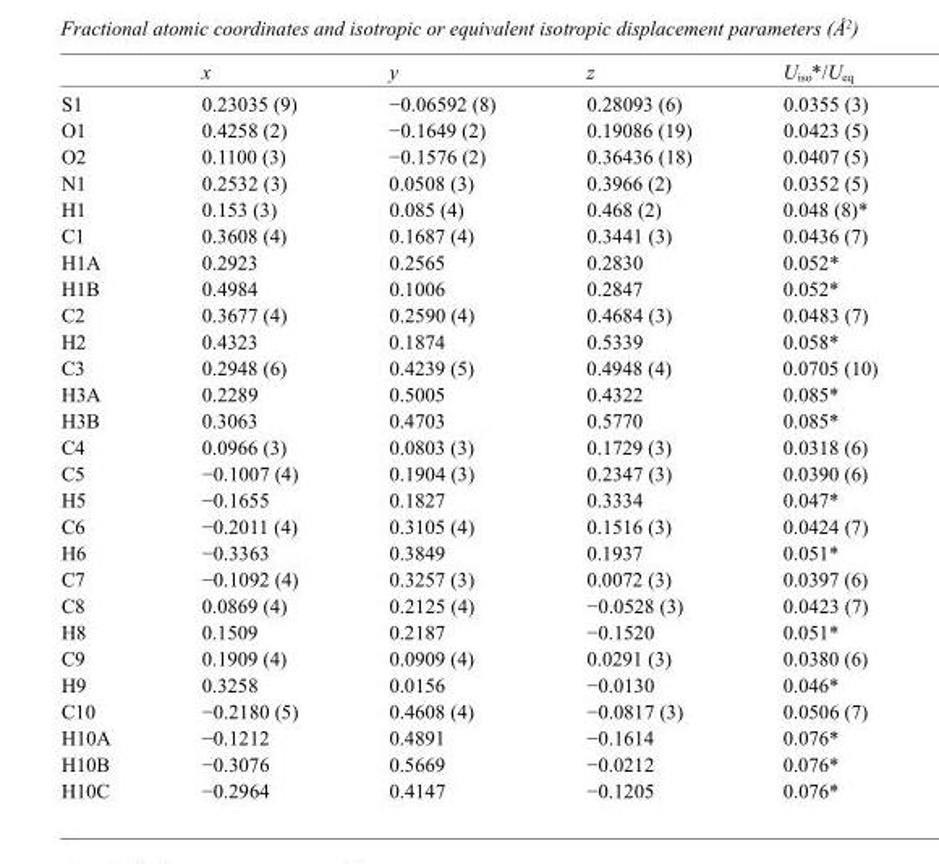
<table><thead><tr><td></td><td>x</td><td>y</td><td>z</td><td>U<sub>iso</sub>*/U<sub>eq</sub></td></tr></thead><tbody><tr><td>S1</td><td>0.23035 (9)</td><td>−0.06592 (8)</td><td>0.28093 (6)</td><td>0.0355 (3)</td></tr><tr><td>O1</td><td>0.4258 (2)</td><td>−0.1649 (2)</td><td>0.19086 (19)</td><td>0.0423 (5)</td></tr><tr><td>O2</td><td>0.1100 (3)</td><td>−0.1576 (2)</td><td>0.36436 (18)</td><td>0.0407 (5)</td></tr><tr><td>N1</td><td>0.2532 (3)</td><td>0.0508 (3)</td><td>0.3966 (2)</td><td>0.0352 (5)</td></tr><tr><td>H1</td><td>0.153 (3)</td><td>0.085 (4)</td><td>0.468 (2)</td><td>0.048 (8)*</td></tr><tr><td>C1</td><td>0.3608 (4)</td><td>0.1687 (4)</td><td>0.3441 (3)</td><td>0.0436 (7)</td></tr><tr><td>H1A</td><td>0.2923</td><td>0.2565</td><td>0.2830</td><td>0.052*</td></tr><tr><td>H1B</td><td>0.4984</td><td>0.1006</td><td>0.2847</td><td>0.052*</td></tr><tr><td>C2</td><td>0.3677 (4)</td><td>0.2590 (4)</td><td>0.4684 (3)</td><td>0.0483 (7)</td></tr><tr><td>H2</td><td>0.4323</td><td>0.1874</td><td>0.5339</td><td>0.058*</td></tr><tr><td>C3</td><td>0.2948 (6)</td><td>0.4239 (5)</td><td>0.4948 (4)</td><td>0.0705 (10)</td></tr><tr><td>H3A</td><td>0.2289</td><td>0.5005</td><td>0.4322</td><td>0.085*</td></tr><tr><td>H3B</td><td>0.3063</td><td>0.4703</td><td>0.5770</td><td>0.085*</td></tr><tr><td>C4</td><td>0.0966 (3)</td><td>0.0803 (3)</td><td>0.1729 (3)</td><td>0.0318 (6)</td></tr><tr><td>C5</td><td>−0.1007 (4)</td><td>0.1904 (3)</td><td>0.2347 (3)</td><td>0.0390 (6)</td></tr><tr><td>H5</td><td>−0.1655</td><td>0.1827</td><td>0.3334</td><td>0.047*</td></tr><tr><td>C6</td><td>−0.2011 (4)</td><td>0.3105 (4)</td><td>0.1516 (3)</td><td>0.0424 (7)</td></tr><tr><td>H6</td><td>−0.3363</td><td>0.3849</td><td>0.1937</td><td>0.051*</td></tr><tr><td>C7</td><td>−0.1092 (4)</td><td>0.3257 (3)</td><td>0.0072 (3)</td><td>0.0397 (6)</td></tr><tr><td>C8</td><td>0.0869 (4)</td><td>0.2125 (4)</td><td>−0.0528 (3)</td><td>0.0423 (7)</td></tr><tr><td>H8</td><td>0.1509</td><td>0.2187</td><td>−0.1520</td><td>0.051*</td></tr><tr><td>C9</td><td>0.1909 (4)</td><td>0.0909 (4)</td><td>0.0291 (3)</td><td>0.0380 (6)</td></tr><tr><td>H9</td><td>0.3258</td><td>0.0156</td><td>−0.0130</td><td>0.046*</td></tr><tr><td>C10</td><td>−0.2180 (5)</td><td>0.4608 (4)</td><td>−0.0817 (3)</td><td>0.0506 (7)</td></tr><tr><td>H10A</td><td>−0.1212</td><td>0.4891</td><td>−0.1614</td><td>0.076*</td></tr><tr><td>H10B</td><td>−0.3076</td><td>0.5669</td><td>−0.0212</td><td>0.076*</td></tr><tr><td>H10C</td><td>−0.2964</td><td>0.4147</td><td>−0.1205</td><td>0.076*</td></tr></tbody></table>